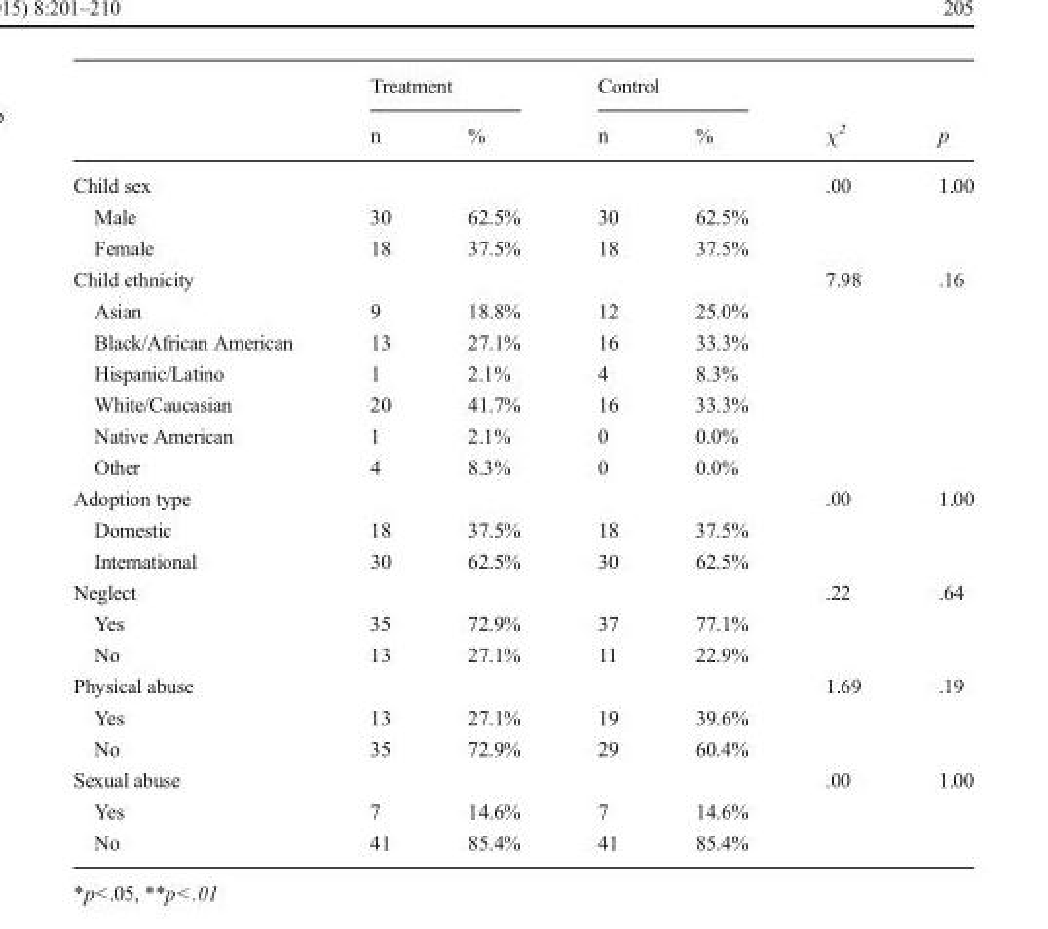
<table><thead><tr><td rowspan="2"></td><td colspan="2">Treatment</td><td colspan="2">Control</td><td rowspan="2">χ<sup>2</sup></td><td rowspan="2">p</td></tr><tr><td>n</td><td>%</td><td>n</td><td>%</td></tr></thead><tbody><tr><td>Child sex</td><td></td><td></td><td></td><td></td><td>.00</td><td>1.00</td></tr><tr><td>Male</td><td>30</td><td>62.5%</td><td>30</td><td>62.5%</td><td></td><td></td></tr><tr><td>Female</td><td>18</td><td>37.5%</td><td>18</td><td>37.5%</td><td></td><td></td></tr><tr><td>Child ethnicity</td><td></td><td></td><td></td><td></td><td>7.98</td><td>.16</td></tr><tr><td>Asian</td><td>9</td><td>18.8%</td><td>12</td><td>25.0%</td><td></td><td></td></tr><tr><td>Black/African American</td><td>13</td><td>27.1%</td><td>16</td><td>33.3%</td><td></td><td></td></tr><tr><td>Hispanic/Latino</td><td>1</td><td>2.1%</td><td>4</td><td>8.3%</td><td></td><td></td></tr><tr><td>White/Caucasian</td><td>20</td><td>41.7%</td><td>16</td><td>33.3%</td><td></td><td></td></tr><tr><td>Native American</td><td>1</td><td>2.1%</td><td>0</td><td>0.0%</td><td></td><td></td></tr><tr><td>Other</td><td>4</td><td>8.3%</td><td>0</td><td>0.0%</td><td></td><td></td></tr><tr><td>Adoption type</td><td></td><td></td><td></td><td></td><td>.00</td><td>1.00</td></tr><tr><td>Domestic</td><td>18</td><td>37.5%</td><td>18</td><td>37.5%</td><td></td><td></td></tr><tr><td>International</td><td>30</td><td>62.5%</td><td>30</td><td>62.5%</td><td></td><td></td></tr><tr><td>Neglect</td><td></td><td></td><td></td><td></td><td>.22</td><td>.64</td></tr><tr><td>Yes</td><td>35</td><td>72.9%</td><td>37</td><td>77.1%</td><td></td><td></td></tr><tr><td>No</td><td>13</td><td>27.1%</td><td>11</td><td>22.9%</td><td></td><td></td></tr><tr><td>Physical abuse</td><td></td><td></td><td></td><td></td><td>1.69</td><td>.19</td></tr><tr><td>Yes</td><td>13</td><td>27.1%</td><td>19</td><td>39.6%</td><td></td><td></td></tr><tr><td>No</td><td>35</td><td>72.9%</td><td>29</td><td>60.4%</td><td></td><td></td></tr><tr><td>Sexual abuse</td><td></td><td></td><td></td><td></td><td>.00</td><td>1.00</td></tr><tr><td>Yes</td><td>7</td><td>14.6%</td><td>7</td><td>14.6%</td><td></td><td></td></tr><tr><td>No</td><td>41</td><td>85.4%</td><td>41</td><td>85.4%</td><td></td><td></td></tr></tbody></table>